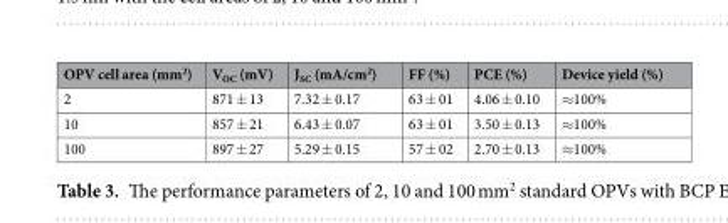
<table><thead><tr><td>OPV cell area (mm<sup>2</sup>)</td><td>V<sub>OC</sub> (mV)</td><td>J<sub>SC</sub> (mA/cm<sup>2</sup>)</td><td>FF (%)</td><td>PCE (%)</td><td>Device yield (%)</td></tr></thead><tbody><tr><td>2</td><td>871 ± 13</td><td>7.32 ± 0.17</td><td>63 ± 01</td><td>4.06 ± 0.10</td><td>≈100%</td></tr><tr><td>10</td><td>857 ± 21</td><td>6.43 ± 0.07</td><td>63 ± 01</td><td>3.50 ± 0.13</td><td>≈100%</td></tr><tr><td>100</td><td>897 ± 27</td><td>5.29 ± 0.15</td><td>57 ± 02</td><td>2.70 ± 0.13</td><td>≈100%</td></tr></tbody></table>